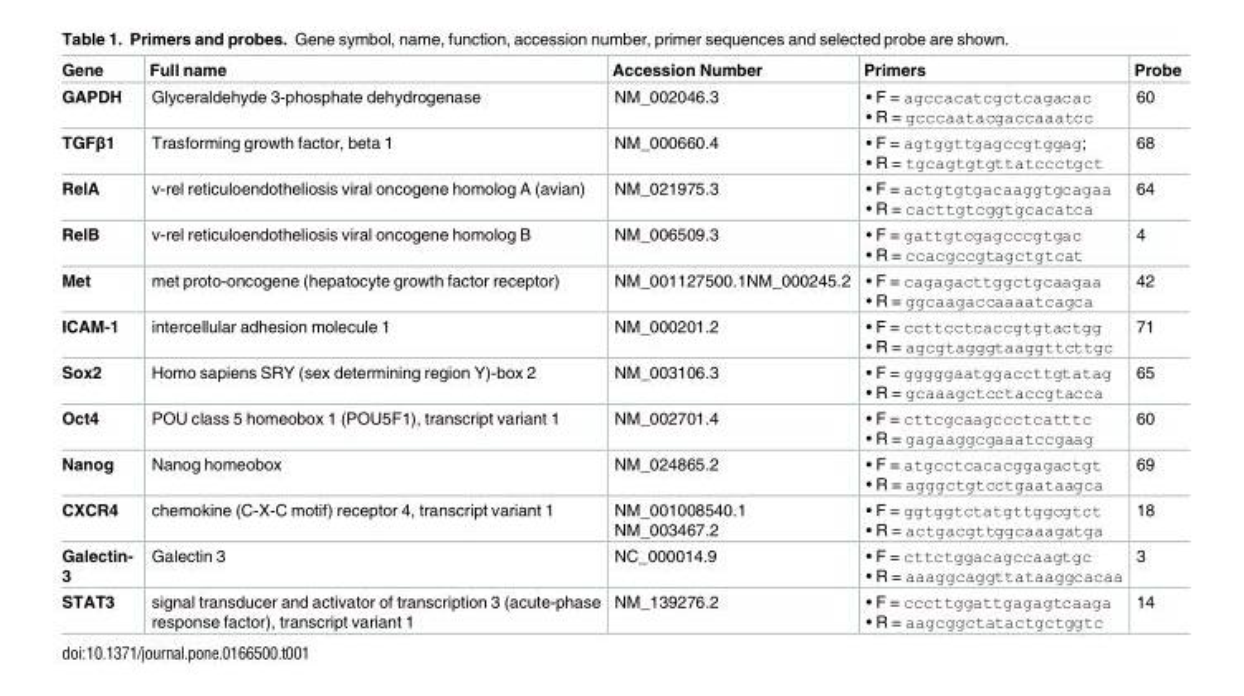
<table><thead><tr><td>Gene</td><td>Full name</td><td>Accession Number</td><td>Primers</td><td>Probe</td></tr></thead><tbody><tr><td>GAPDH</td><td>Glyceraldehyde 3-phosphate dehydrogenase</td><td>NM_002046.3</td><td>• F = agccacatcgctcagacac • R = gcccaatacgaccaaatcc</td><td>60</td></tr><tr><td>TGFβ1</td><td>Trasforming growth factor, beta 1</td><td>NM_000660.4</td><td>• F = agtggttgagccgtggag; • R = tgcagtgtgttatccctgct</td><td>68</td></tr><tr><td>RelA</td><td>v-rel reticuloendotheliosis viral oncogene homolog A (avian)</td><td>NM_021975.3</td><td>• F = actgtgtgacaaggtgcagaa • R = cacttgtcggtgcacatca</td><td>64</td></tr><tr><td>RelB</td><td>v-rel reticuloendotheliosis viral oncogene homolog B</td><td>NM_006509.3</td><td>• F = gattgtcgagcccgtgac • R = ccacgccgtagctgtcat</td><td>4</td></tr><tr><td>Met</td><td>met proto-oncogene (hepatocyte growth factor receptor)</td><td>NM_001127500.1NM_000245.2</td><td>• F = cagagacttggctgcaagaa • R = ggcaagaccaaaatcagca</td><td>42</td></tr><tr><td>ICAM-1</td><td>intercellular adhesion molecule 1</td><td>NM_000201.2</td><td>• F = ccttcctcaccgtgtactgg • R = agcgtagggtaaggttcttgc</td><td>71</td></tr><tr><td>Sox2</td><td>Homo sapiens SRY (sex determining region Y)-box 2</td><td>NM_003106.3</td><td>• F = gggggaatggaccttgtatag • R = gcaaagctcctaccgtacca</td><td>65</td></tr><tr><td>Oct4</td><td>POU class 5 homeobox 1 (POU5F1), transcript variant 1</td><td>NM_002701.4</td><td>• F = cttcgcaagccctcatttc • R = gagaaggcgaaatccgaag</td><td>60</td></tr><tr><td>Nanog</td><td>Nanog homeobox</td><td>NM_024865.2</td><td>• F = atgcctcacacggagactgt • R = agggctgtcctgaataagca</td><td>69</td></tr><tr><td>CXCR4</td><td>chemokine (C-X-C motif) receptor 4, transcript variant 1</td><td>NM_001008540.1 NM_003467.2</td><td>• F = ggtggtctatgttggcgtct • R = actgacgttggcaaagatga</td><td>18</td></tr><tr><td>Galectin- 3</td><td>Galectin 3</td><td>NC_000014.9</td><td>• F = cttctggacagccaagtgc • R = aaaggcaggttataaggcacaa</td><td>3</td></tr><tr><td>STAT3</td><td>signal transducer and activator of transcription 3 (acute-phase response factor), transcript variant 1</td><td>NM_139276.2</td><td>• F = cccttggattgagagtcaaga • R = aagcggctatactgctggtc</td><td>14</td></tr></tbody></table>